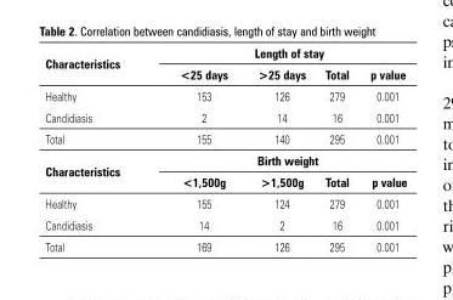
<table><thead><tr><td rowspan="2">Characteristics</td><td colspan="4">Length of stay</td></tr><tr><td>&lt;25 days</td><td>&gt;25 days</td><td>Total</td><td>p value</td></tr></thead><tbody><tr><td>Healthy</td><td>153</td><td>126</td><td>279</td><td>0.001</td></tr><tr><td>Candidiasis</td><td>2</td><td>14</td><td>16</td><td>0.001</td></tr><tr><td>Total</td><td>155</td><td>140</td><td>295</td><td>0.001</td></tr><tr><td rowspan="2">Characteristics</td><td colspan="4">Birth weight</td></tr><tr><td>&lt;1,500g</td><td>&gt;1,500g</td><td>Total</td><td>p value</td></tr><tr><td>Healthy</td><td>155</td><td>124</td><td>279</td><td>0.001</td></tr><tr><td>Candidiasis</td><td>14</td><td>2</td><td>16</td><td>0.001</td></tr><tr><td>Total</td><td>169</td><td>126</td><td>295</td><td>0.001</td></tr></tbody></table>